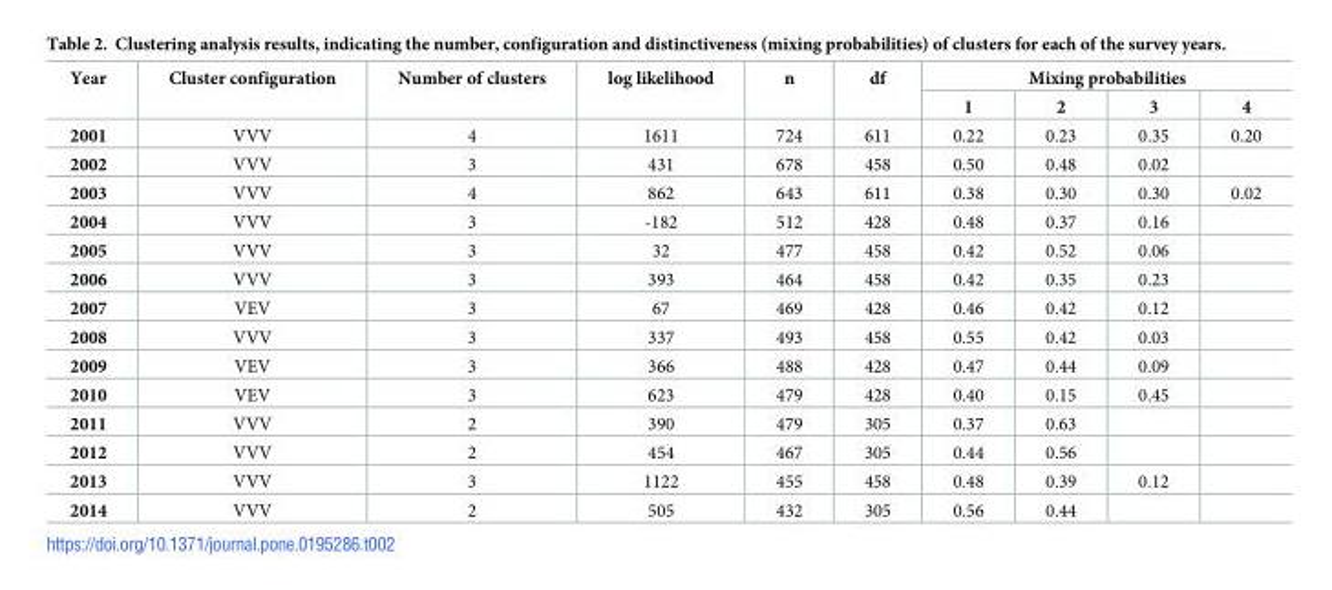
<table><thead><tr><td rowspan="2">Year</td><td rowspan="2">Cluster configuration</td><td rowspan="2">Number of clusters</td><td rowspan="2">log likelihood</td><td rowspan="2">n</td><td rowspan="2">df</td><td colspan="4">Mixing probabilities</td></tr><tr><td>1</td><td>2</td><td>3</td><td>4</td></tr></thead><tbody><tr><td>2001</td><td>VVV</td><td>4</td><td>1611</td><td>724</td><td>611</td><td>0.22</td><td>0.23</td><td>0.35</td><td>0.20</td></tr><tr><td>2002</td><td>VVV</td><td>3</td><td>431</td><td>678</td><td>458</td><td>0.50</td><td>0.48</td><td>0.02</td><td></td></tr><tr><td>2003</td><td>VVV</td><td>4</td><td>862</td><td>643</td><td>611</td><td>0.38</td><td>0.30</td><td>0.30</td><td>0.02</td></tr><tr><td>2004</td><td>VVV</td><td>3</td><td>-182</td><td>512</td><td>428</td><td>0.48</td><td>0.37</td><td>0.16</td><td></td></tr><tr><td>2005</td><td>VVV</td><td>3</td><td>32</td><td>477</td><td>458</td><td>0.42</td><td>0.52</td><td>0.06</td><td></td></tr><tr><td>2006</td><td>VVV</td><td>3</td><td>393</td><td>464</td><td>458</td><td>0.42</td><td>0.35</td><td>0.23</td><td></td></tr><tr><td>2007</td><td>VEV</td><td>3</td><td>67</td><td>469</td><td>428</td><td>0.46</td><td>0.42</td><td>0.12</td><td></td></tr><tr><td>2008</td><td>VVV</td><td>3</td><td>337</td><td>493</td><td>458</td><td>0.55</td><td>0.42</td><td>0.03</td><td></td></tr><tr><td>2009</td><td>VEV</td><td>3</td><td>366</td><td>488</td><td>428</td><td>0.47</td><td>0.44</td><td>0.09</td><td></td></tr><tr><td>2010</td><td>VEV</td><td>3</td><td>623</td><td>479</td><td>428</td><td>0.40</td><td>0.15</td><td>0.45</td><td></td></tr><tr><td>2011</td><td>VVV</td><td>2</td><td>390</td><td>479</td><td>305</td><td>0.37</td><td>0.63</td><td></td><td></td></tr><tr><td>2012</td><td>VVV</td><td>2</td><td>454</td><td>467</td><td>305</td><td>0.44</td><td>0.56</td><td></td><td></td></tr><tr><td>2013</td><td>VVV</td><td>3</td><td>1122</td><td>455</td><td>458</td><td>0.48</td><td>0.39</td><td>0.12</td><td></td></tr><tr><td>2014</td><td>VVV</td><td>2</td><td>505</td><td>432</td><td>305</td><td>0.56</td><td>0.44</td><td></td><td></td></tr></tbody></table>